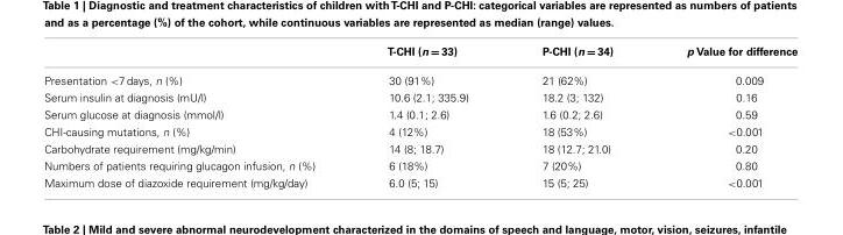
<table><thead><tr><td></td><td>T-CHI (n = 33)</td><td>P-CHI (n = 34)</td><td>p Value for difference</td></tr></thead><tbody><tr><td>Presentation &lt;7 days, n (%)</td><td>30 (91%)</td><td>21 (62%)</td><td>0.009</td></tr><tr><td>Serum insulin at diagnosis (mU/l)</td><td>10.6 (2.1; 335.9)</td><td>18.2 (3; 132)</td><td>0.16</td></tr><tr><td>Serum glucose at diagnosis (mmol/l)</td><td>1.4 (0.1; 2.6)</td><td>1.6 (0.2; 2.6)</td><td>0.59</td></tr><tr><td>CHI-causing mutations, n (%)</td><td>4 (12%)</td><td>18 (53%)</td><td>&lt;0.001</td></tr><tr><td>Carbohydrate requirement (mg/kg/min)</td><td>14 (8; 18.7)</td><td>18 (12.7; 21.0)</td><td>0.20</td></tr><tr><td>Numbers of patients requiring glucagon infusion, n (%)</td><td>6 (18%)</td><td>7 (20%)</td><td>0.80</td></tr><tr><td>Maximum dose of diazoxide requirement (mg/kg/day)</td><td>6.0 (5; 15)</td><td>15 (5; 25)</td><td>&lt;0.001</td></tr></tbody></table>